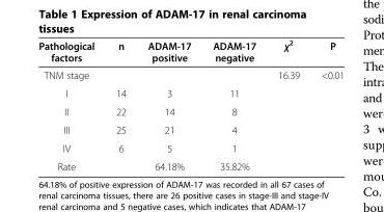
<table><thead><tr><td>Pathological factors</td><td>n</td><td>ADAM-17 positive</td><td>ADAM-17 negative</td><td>χ<sup>2</sup></td><td>P</td></tr></thead><tbody><tr><td>TNM stage</td><td></td><td></td><td></td><td>16.39</td><td>&lt;0.01</td></tr><tr><td>I</td><td>14</td><td>3</td><td>11</td><td></td><td></td></tr><tr><td>II</td><td>22</td><td>14</td><td>8</td><td></td><td></td></tr><tr><td>III</td><td>25</td><td>21</td><td>4</td><td></td><td></td></tr><tr><td>IV</td><td>6</td><td>5</td><td>1</td><td></td><td></td></tr><tr><td>Rate</td><td></td><td>64.18%</td><td>35.82%</td><td></td><td></td></tr></tbody></table>